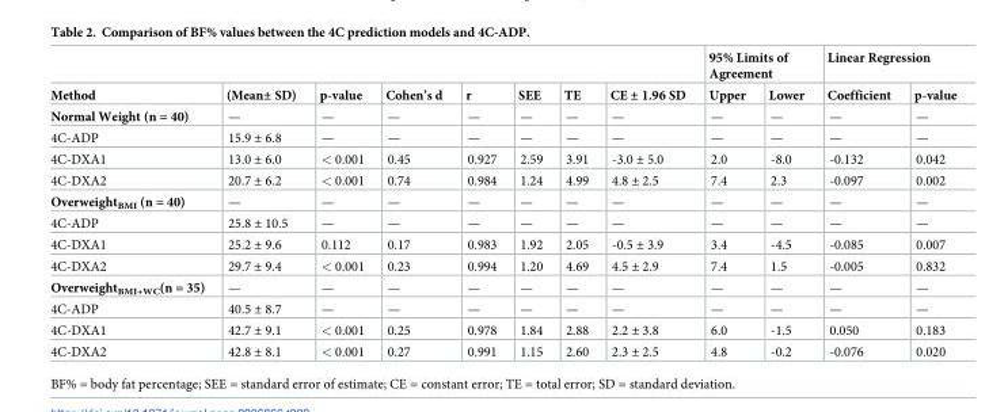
<table><thead><tr><td rowspan="2">Method</td><td rowspan="2">(Mean± SD)</td><td rowspan="2">p-value</td><td rowspan="2">Cohen’s d</td><td rowspan="2">r</td><td rowspan="2">SEE</td><td rowspan="2">TE</td><td rowspan="2">CE ± 1.96 SD</td><td colspan="2">95% Limits of Agreement</td><td colspan="2">Linear Regression</td></tr><tr><td>Upper</td><td>Lower</td><td>Coefficient</td><td>p-value</td></tr></thead><tbody><tr><td>Normal Weight (n = 40)</td><td>—</td><td>—</td><td>—</td><td>—</td><td>—</td><td>—</td><td>—</td><td>—</td><td>—</td><td>—</td><td>—</td></tr><tr><td>4C-ADP</td><td>15.9 ± 6.8</td><td>—</td><td>—</td><td>—</td><td>—</td><td>—</td><td>—</td><td>—</td><td>—</td><td>—</td><td>—</td></tr><tr><td>4C-DXA1</td><td>13.0 ± 6.0</td><td>&lt; 0.001</td><td>0.45</td><td>0.927</td><td>2.59</td><td>3.91</td><td>-3.0 ± 5.0</td><td>2.0</td><td>-8.0</td><td>-0.132</td><td>0.042</td></tr><tr><td>4C-DXA2</td><td>20.7 ± 6.2</td><td>&lt; 0.001</td><td>0.74</td><td>0.984</td><td>1.24</td><td>4.99</td><td>4.8 ± 2.5</td><td>7.4</td><td>2.3</td><td>-0.097</td><td>0.002</td></tr><tr><td>Overweight<sub>BMI</sub> (n = 40)</td><td>—</td><td>—</td><td>—</td><td>—</td><td>—</td><td>—</td><td>—</td><td>—</td><td>—</td><td>—</td><td>—</td></tr><tr><td>4C-ADP</td><td>25.8 ± 10.5</td><td>—</td><td>—</td><td>—</td><td>—</td><td>—</td><td>—</td><td>—</td><td>—</td><td>—</td><td>—</td></tr><tr><td>4C-DXA1</td><td>25.2 ± 9.6</td><td>0.112</td><td>0.17</td><td>0.983</td><td>1.92</td><td>2.05</td><td>-0.5 ± 3.9</td><td>3.4</td><td>-4.5</td><td>-0.085</td><td>0.007</td></tr><tr><td>4C-DXA2</td><td>29.7 ± 9.4</td><td>&lt; 0.001</td><td>0.23</td><td>0.994</td><td>1.20</td><td>4.69</td><td>4.5 ± 2.9</td><td>7.4</td><td>1.5</td><td>-0.005</td><td>0.832</td></tr><tr><td>Overweight<sub>BMI+WC</sub>(n = 35)</td><td>—</td><td>—</td><td>—</td><td>—</td><td>—</td><td>—</td><td>—</td><td>—</td><td>—</td><td>—</td><td>—</td></tr><tr><td>4C-ADP</td><td>40.5 ± 8.7</td><td>—</td><td>—</td><td>—</td><td>—</td><td>—</td><td>—</td><td>—</td><td>—</td><td>—</td><td>—</td></tr><tr><td>4C-DXA1</td><td>42.7 ± 9.1</td><td>&lt; 0.001</td><td>0.25</td><td>0.978</td><td>1.84</td><td>2.88</td><td>2.2 ± 3.8</td><td>6.0</td><td>-1.5</td><td>0.050</td><td>0.183</td></tr><tr><td>4C-DXA2</td><td>42.8 ± 8.1</td><td>&lt; 0.001</td><td>0.27</td><td>0.991</td><td>1.15</td><td>2.60</td><td>2.3 ± 2.5</td><td>4.8</td><td>-0.2</td><td>-0.076</td><td>0.020</td></tr></tbody></table>